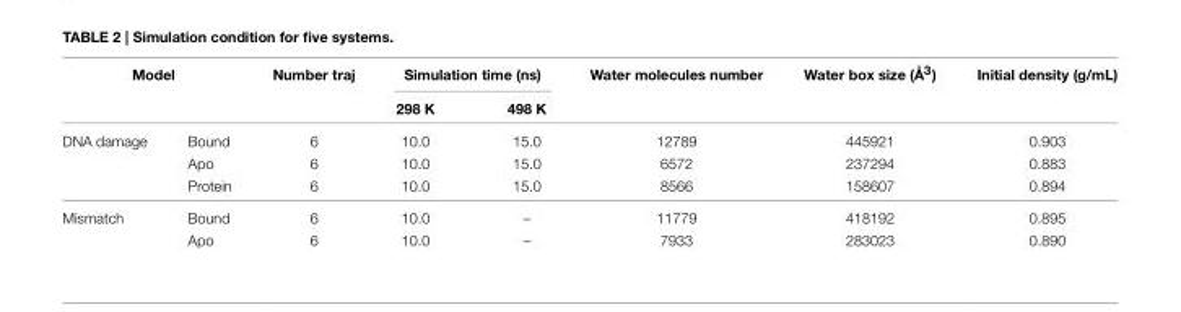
<table><thead><tr><td colspan="2">Model</td><td rowspan="2">Number traj</td><td colspan="2">Simulation time (ns)</td><td rowspan="2">Water molecules number</td><td rowspan="2">Water box size (Å<sup>3</sup>)</td><td rowspan="2">Initial density (g/mL)</td></tr><tr><td></td><td></td><td>298 K</td><td>498 K</td></tr></thead><tbody><tr><td rowspan="3">DNA damage</td><td>Bound</td><td>6</td><td>10.0</td><td>15.0</td><td>12789</td><td>445921</td><td>0.903</td></tr><tr><td>Apo</td><td>6</td><td>10.0</td><td>15.0</td><td>6572</td><td>237294</td><td>0.883</td></tr><tr><td>Protein</td><td>6</td><td>10.0</td><td>15.0</td><td>8566</td><td>158607</td><td>0.894</td></tr><tr><td rowspan="2">Mismatch</td><td>Bound</td><td>6</td><td>10.0</td><td>–</td><td>11779</td><td>418192</td><td>0.895</td></tr><tr><td>Apo</td><td>6</td><td>10.0</td><td>–</td><td>7933</td><td>283023</td><td>0.890</td></tr></tbody></table>